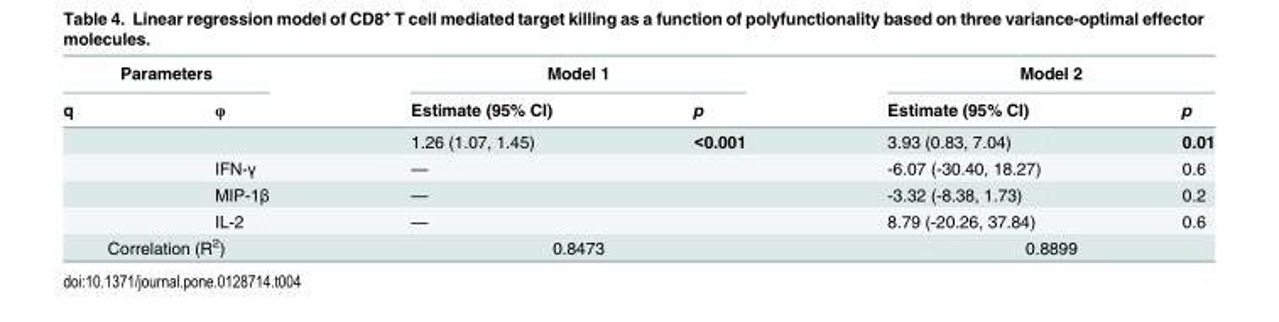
<table><thead><tr><td colspan="2">Parameters</td><td colspan="2">Model 1</td><td colspan="2">Model 2</td></tr><tr><td>q</td><td>φ</td><td>Estimate (95% CI)</td><td>p</td><td>Estimate (95% CI)</td><td>p</td></tr></thead><tbody><tr><td></td><td></td><td>1.26 (1.07, 1.45)</td><td>&lt;0.001</td><td>3.93 (0.83, 7.04)</td><td>0.01</td></tr><tr><td></td><td>IFN-γ</td><td>—</td><td></td><td>-6.07 (-30.40, 18.27)</td><td>0.6</td></tr><tr><td></td><td>MIP-1β</td><td>—</td><td></td><td>-3.32 (-8.38, 1.73)</td><td>0.2</td></tr><tr><td></td><td>IL-2</td><td>—</td><td></td><td>8.79 (-20.26, 37.84)</td><td>0.6</td></tr><tr><td colspan="2">Correlation (R<sup>2</sup>)</td><td colspan="2">0.8473</td><td colspan="2">0.8899</td></tr></tbody></table>